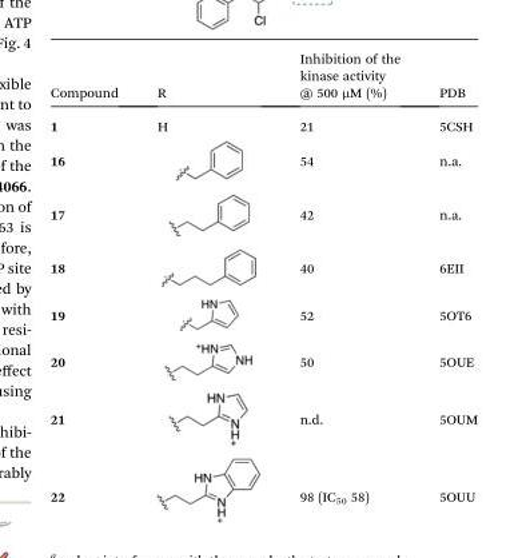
<table><thead><tr><td>Compound</td><td>R</td><td>Inhibition of the kinase activity @ 500 μM (%)</td><td>PDB</td></tr></thead><tbody><tr><td>1</td><td>H</td><td>21</td><td>5CSH</td></tr><tr><td>16</td><td></td><td>54</td><td>n.a.</td></tr><tr><td>17</td><td></td><td>42</td><td>n.a.</td></tr><tr><td>18</td><td></td><td>40</td><td>6EII</td></tr><tr><td>19</td><td></td><td>52</td><td>5OT6</td></tr><tr><td>20</td><td></td><td>50</td><td>5OUE</td></tr><tr><td>21</td><td></td><td>n.d.</td><td>5OUM</td></tr><tr><td>22</td><td></td><td>98 (IC<sub>50</sub> 58)</td><td>5OUU</td></tr></tbody></table>